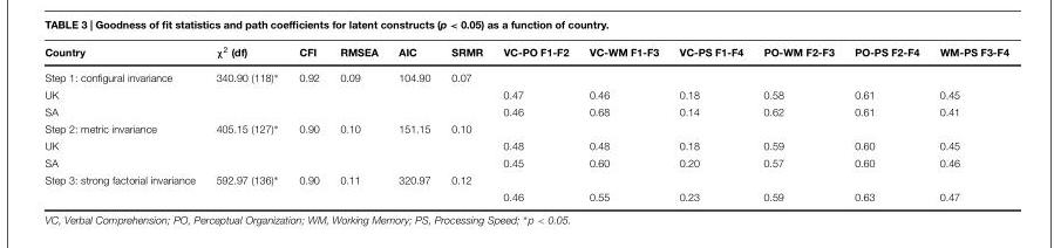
<table><thead><tr><td>Country</td><td>χ<sup>2</sup> (df)</td><td>CFI</td><td>RMSEA</td><td>AIC</td><td>SRMR</td><td>VC-PO F1-F2</td><td>VC-WM F1-F3</td><td>VC-PS F1-F4</td><td>PO-WM F2-F3</td><td>PO-PS F2-F4</td><td>WM-PS F3-F4</td></tr></thead><tbody><tr><td>Step 1: configural invariance</td><td>340.90 (118)∗</td><td>0.92</td><td>0.09</td><td>104.90</td><td>0.07</td><td></td><td></td><td></td><td></td><td></td><td></td></tr><tr><td>UK</td><td></td><td></td><td></td><td></td><td></td><td>0.47</td><td>0.46</td><td>0.18</td><td>0.58</td><td>0.61</td><td>0.45</td></tr><tr><td>SA</td><td></td><td></td><td></td><td></td><td></td><td>0.46</td><td>0.68</td><td>0.14</td><td>0.62</td><td>0.61</td><td>0.41</td></tr><tr><td>Step 2: metric invariance</td><td>405.15 (127)∗</td><td>0.90</td><td>0.10</td><td>151.15</td><td>0.10</td><td></td><td></td><td></td><td></td><td></td><td></td></tr><tr><td>UK</td><td></td><td></td><td></td><td></td><td></td><td>0.48</td><td>0.48</td><td>0.18</td><td>0.59</td><td>0.60</td><td>0.45</td></tr><tr><td>SA</td><td></td><td></td><td></td><td></td><td></td><td>0.45</td><td>0.60</td><td>0.20</td><td>0.57</td><td>0.60</td><td>0.46</td></tr><tr><td rowspan="2">Step 3: strong factorial invariance</td><td>592.97 (136)∗</td><td>0.90</td><td>0.11</td><td>320.97</td><td>0.12</td><td></td><td></td><td></td><td></td><td></td><td></td></tr><tr><td></td><td></td><td></td><td></td><td></td><td>0.46</td><td>0.55</td><td>0.23</td><td>0.59</td><td>0.63</td><td>0.47</td></tr></tbody></table>